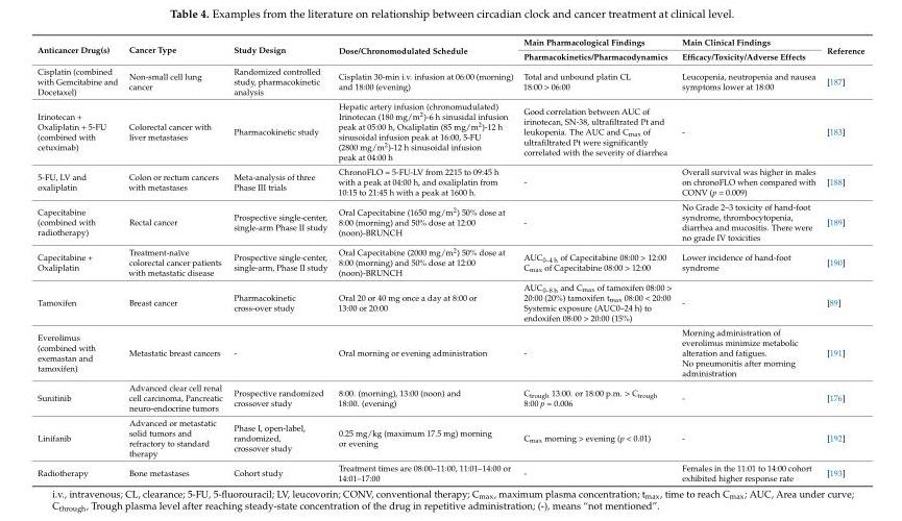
<table><thead><tr><td rowspan="2">Anticancer Drug(s)</td><td rowspan="2">Cancer Type</td><td rowspan="2">Study Design</td><td rowspan="2">Dose/Chronomodulated Schedule</td><td rowspan="2">Main Pharmacological Findings Pharmacokinetics/Pharmacodynamics</td><td rowspan="2">Main Clinical Findings Efficacy/Toxicity/Adverse Effects</td><td rowspan="2">Reference</td></tr><tr></tr></thead><tbody><tr><td>Cisplatin (combined with Gemcitabine and Docetaxel)</td><td>Non-small cell lung cancer</td><td>Randomized controlled study, pharmacokinetic analysis</td><td>Cisplatin 30-min i.v. infusion at 06:00 (morning) and 18:00 (evening)</td><td>Total and unbound platin CL 18:00 &gt; 06:00</td><td>Leucopenia, neutropenia and nausea symptoms lower at 18:00</td><td>[187]</td></tr><tr><td>Irinotecan + Oxaliplatin + 5-FU (combined with cetuximab)</td><td>Colorectal cancer with liver metastases</td><td>Pharmacokinetic study</td><td>Hepatic artery infusion (chronomudulated) Irinotecan (180 mg/m<sup>2</sup>)-6 h sinusidal infusion peak at 05:00 h, Oxaliplatin (85 mg/m<sup>2</sup>)-12 h sinusoidal infusion peak at 16:00, 5-FU (2800 mg/m<sup>2</sup>)-12 h sinusoidal infusion peak at 04:00 h</td><td>Good correlation between AUC of irinotecan, SN-38, ultrafiltrated Pt and leukopenia. The AUC and C<sub>max</sub> of ultrafiltrated Pt were significantly correlated with the severity of diarrhea</td><td>-</td><td>[183]</td></tr><tr><td>5-FU, LV and oxaliplatin</td><td>Colon or rectum cancers with metastases</td><td>Meta-analysis of three Phase III trials</td><td>ChronoFLO = 5-FU-LV from 2215 to 09:45 h with a peak at 04:00 h, and oxaliplatin from 10:15 to 21:45 h with a peak at 1600 h.</td><td>-</td><td>Overall survival was higher in males on chronoFLO when compared with CONV (p = 0.009)</td><td>[188]</td></tr><tr><td>Capecitabine (combined with radiotherapy)</td><td>Rectal cancer</td><td>Prospective single-center, single-arm Phase II study</td><td>Oral Capecitabine (1650 mg/m<sup>2</sup>) 50% dose at 8:00 (morning) and 50% dose at 12:00 (noon)-BRUNCH</td><td>-</td><td>No Grade 2–3 toxicity of hand-foot syndrome, thrombocytopenia, diarrhea and mucositis. There were no grade IV toxicities</td><td>[189]</td></tr><tr><td>Capecitabine + Oxaliplatin</td><td>Treatment-naïve colorectal cancer patients with metastatic disease</td><td>Prospective single-center, single-arm, Phase II study</td><td>Oral Capecitabine (2000 mg/m<sup>2</sup>) 50% dose at 8:00 (morning) and 50% dose at 12:00 (noon)-BRUNCH</td><td>AUC<sub>0–4 h</sub> of Capecitabine 08:00 &gt; 12:00 C<sub>max</sub> of Capecitabine 08:00 &gt; 12:00</td><td>Lower incidence of hand-foot syndrome</td><td>[190]</td></tr><tr><td>Tamoxifen</td><td>Breast cancer</td><td>Pharmacokinetic cross-over study</td><td>Oral 20 or 40 mg once a day at 8:00 or 13:00 or 20:00</td><td>AUC<sub>0–8 h</sub> and C<sub>max</sub> of tamoxifen 08:00 &gt; 20:00 (20%) tamoxifen t<sub>max</sub> 08:00 &lt; 20:00 Systemic exposure (AUC0–24 h) to endoxifen 08:00 &gt; 20:00 (15%)</td><td>-</td><td>[89]</td></tr><tr><td>Everolimus (combined with exemastan and tamoxifen)</td><td>Metastatic breast cancers</td><td>-</td><td>Oral morning or evening administration</td><td>-</td><td>Morning administration of everolimus minimize metabolic alteration and fatigues. No pneumonitis after morning administration</td><td>[191]</td></tr><tr><td>Sunitinib</td><td>Advanced clear cell renal cell carcinoma, Pancreatic neuro-endocrine tumors</td><td>Prospective randomized crossover study</td><td>8:00. (morning), 13:00 (noon) and 18:00. (evening)</td><td>C<sub>trough</sub> 13:00. or 18:00 p.m. &gt; C<sub>trough</sub> 8:00 p = 0.006</td><td>-</td><td>[176]</td></tr><tr><td>Linifanib</td><td>Advanced or metastatic solid tumors and refractory to standard therapy</td><td>Phase I, open-label, randomized, crossover study</td><td>0.25 mg/kg (maximum 17.5 mg) morning or evening</td><td>C<sub>max</sub> morning &gt; evening (p &lt; 0.01)</td><td>-</td><td>[192]</td></tr><tr><td>Radiotherapy</td><td>Bone metastases</td><td>Cohort study</td><td>Treatment times are 08:00–11:00, 11:01–14:00 or 14:01–17:00</td><td>-</td><td>Females in the 11:01 to 14:00 cohort exhibited higher response rate</td><td>[193]</td></tr></tbody></table>